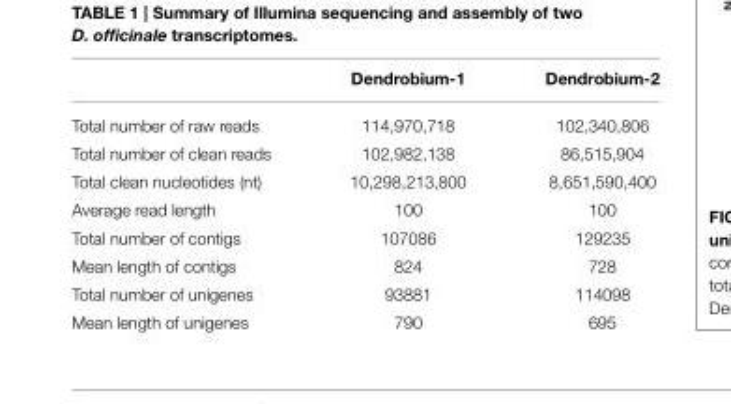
<table><thead><tr><td></td><td>Dendrobium-1</td><td>Dendrobium-2</td></tr></thead><tbody><tr><td>Total number of raw reads</td><td>114,970,718</td><td>102,340,806</td></tr><tr><td>Total number of clean reads</td><td>102,982,138</td><td>86,515,904</td></tr><tr><td>Total clean nucleotides (nt)</td><td>10,298,213,800</td><td>8,651,590,400</td></tr><tr><td>Average read length</td><td>100</td><td>100</td></tr><tr><td>Total number of contigs</td><td>107086</td><td>129235</td></tr><tr><td>Mean length of contigs</td><td>824</td><td>728</td></tr><tr><td>Total number of unigenes</td><td>93881</td><td>114098</td></tr><tr><td>Mean length of unigenes</td><td>790</td><td>695</td></tr></tbody></table>